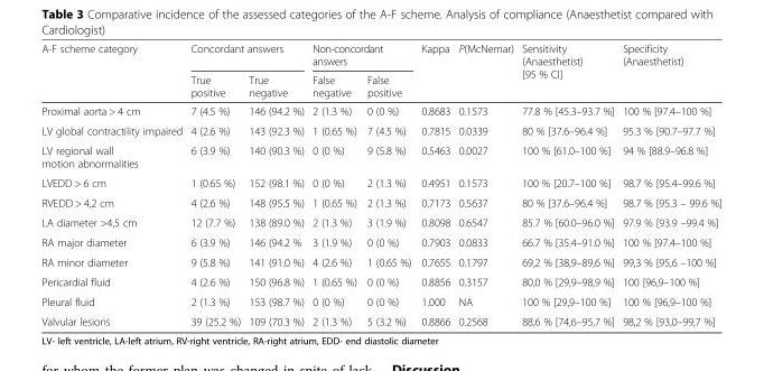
<table><thead><tr><td rowspan="2">A-F scheme category</td><td colspan="2">Concordant answers</td><td colspan="2">Non-concordant answers</td><td rowspan="2">Kappa</td><td rowspan="2">P(McNemar)</td><td rowspan="2">Sensitivity (Anaesthetist) [95 % CI]</td><td rowspan="2">Specificity (Anaesthetist)</td></tr><tr><td>True positive</td><td>True negative</td><td>False negative</td><td>False positive</td></tr></thead><tbody><tr><td>Proximal aorta &gt; 4 cm</td><td>7 (4.5 %)</td><td>146 (94.2 %)</td><td>2 (1.3 %)</td><td>0 (0 %)</td><td>0.8683</td><td>0.1573</td><td>77.8 % [45.3–93.7 %]</td><td>100 % [97.4–100 %]</td></tr><tr><td>LV global contractility impaired</td><td>4 (2.6 %)</td><td>143 (92.3 %)</td><td>1 (0.65 %)</td><td>7 (4.5 %)</td><td>0.7815</td><td>0.0339</td><td>80 % [37.6–96.4 %]</td><td>95.3 % [90.7–97.7 %]</td></tr><tr><td>LV regional wall motion abnormalities</td><td>6 (3.9 %)</td><td>140 (90.3 %)</td><td>0 (0 %)</td><td>9 (5.8 %)</td><td>0.5463</td><td>0.0027</td><td>100 % [61.0–100 %]</td><td>94 % [88.9–96.8 %]</td></tr><tr><td>LVEDD &gt; 6 cm</td><td>1 (0.65 %)</td><td>152 (98.1 %)</td><td>0 (0 %)</td><td>2 (1.3 %)</td><td>0.4951</td><td>0.1573</td><td>100 % [20.7–100 %]</td><td>98.7 % [95.4–99.6 %]</td></tr><tr><td>RVEDD &gt; 4,2 cm</td><td>4 (2.6 %)</td><td>148 (95.5 %)</td><td>1 (0.65 %)</td><td>2 (1.3 %)</td><td>0.7173</td><td>0.5637</td><td>80 % [37.6–96.4 %]</td><td>98.7 % [95.3 – 99.6 %]</td></tr><tr><td>LA diameter &gt;4,5 cm</td><td>12 (7.7 %)</td><td>138 (89.0 %)</td><td>2 (1.3 %)</td><td>3 (1.9 %)</td><td>0.8098</td><td>0.6547</td><td>85.7 % [60.0–96.0 %]</td><td>97.9 % [93.9 –99.4 %]</td></tr><tr><td>RA major diameter</td><td>6 (3.9 %)</td><td>146 (94.2 %</td><td>3 (1.9 %)</td><td>0 (0 %)</td><td>0.7903</td><td>0.0833</td><td>66.7 % [35.4–91.0 %]</td><td>100 % [97.4–100 %]</td></tr><tr><td>RA minor diameter</td><td>9 (5.8 %)</td><td>141 (91.0 %)</td><td>4 (2.6 %)</td><td>1 (0.65 %)</td><td>0.7655</td><td>0.1797</td><td>69,2 % [38,9–89,6 %]</td><td>99,3 % [95,6 –100 %]</td></tr><tr><td>Pericardial fluid</td><td>4 (2.6 %)</td><td>150 (96.8 %)</td><td>1 (0.65 %)</td><td>0 (0 %)</td><td>0.8856</td><td>0.3157</td><td>80,0 % [29,9–98,9 %]</td><td>100 [96,9–100 %]</td></tr><tr><td>Pleural fluid</td><td>2 (1.3 %)</td><td>153 (98.7 %)</td><td>0 (0 %)</td><td>0 (0 %)</td><td>1.000</td><td>NA</td><td>100 % [29,9–100 %]</td><td>100 % [96,9–100 %]</td></tr><tr><td>Valvular lesions</td><td>39 (25.2 %)</td><td>109 (70.3 %)</td><td>2 (1.3 %)</td><td>5 (3.2 %)</td><td>0.8866</td><td>0.2568</td><td>88,6 % [74,6–95,7 %]</td><td>98,2 % [93,0–99,7 %]</td></tr></tbody></table>